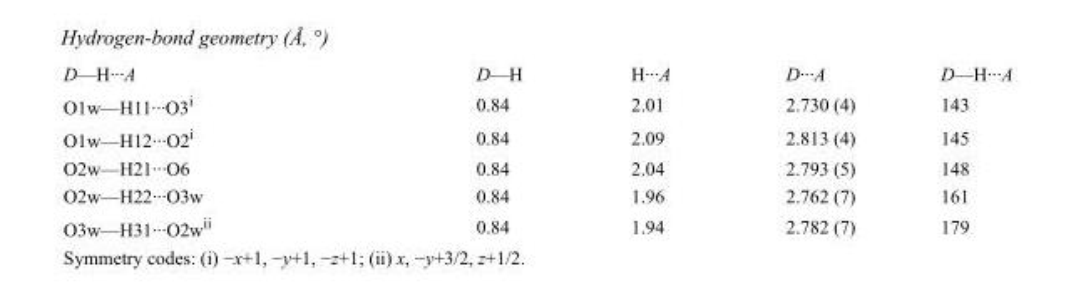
<table><tbody><tr><td>D—H···A</td><td>D—H</td><td>H···A</td><td>D···A</td><td>D—H···A</td></tr><tr><td>O1w—H11···O3<sup>i</sup></td><td>0.84</td><td>2.01</td><td>2.730 (4)</td><td>143</td></tr><tr><td>O1w—H12···O2<sup>i</sup></td><td>0.84</td><td>2.09</td><td>2.813 (4)</td><td>145</td></tr><tr><td>O2w—H21···O6</td><td>0.84</td><td>2.04</td><td>2.793 (5)</td><td>148</td></tr><tr><td>O2w—H22···O3w</td><td>0.84</td><td>1.96</td><td>2.762 (7)</td><td>161</td></tr><tr><td>O3w—H31···O2w<sup>ii</sup></td><td>0.84</td><td>1.94</td><td>2.782 (7)</td><td>179</td></tr></tbody></table>